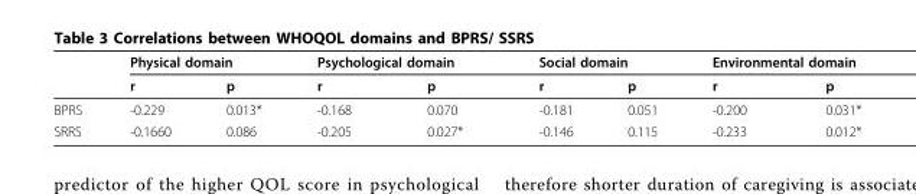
<table><thead><tr><td rowspan="2"></td><td colspan="2">Physical domain</td><td colspan="2">Psychological domain</td><td colspan="2">Social domain</td><td colspan="2">Environmental domain</td></tr><tr><td>r</td><td>p</td><td>r</td><td>p</td><td>r</td><td>p</td><td>r</td><td>p</td></tr></thead><tbody><tr><td>BPRS</td><td>-0.229</td><td>0.013*</td><td>-0.168</td><td>0.070</td><td>-0.181</td><td>0.051</td><td>-0.200</td><td>0.031*</td></tr><tr><td>SRRS</td><td>-0.1660</td><td>0.086</td><td>-0.205</td><td>0.027*</td><td>-0.146</td><td>0.115</td><td>-0.233</td><td>0.012*</td></tr></tbody></table>